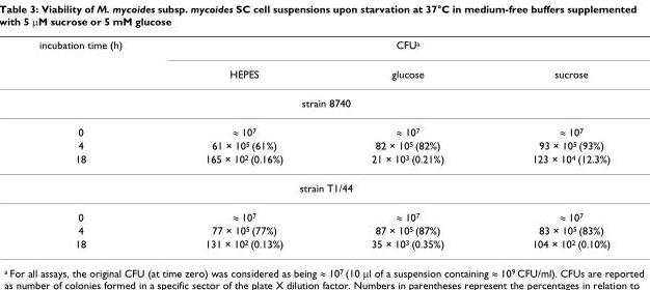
<table><thead><tr><td rowspan="2">incubation time (h)</td><td colspan="3">CFUa</td></tr><tr><td>HEPES</td><td>glucose</td><td>sucrose</td></tr></thead><tbody><tr><td colspan="4">strain 8740</td></tr><tr><td>0</td><td>≈ 107</td><td>≈ 107</td><td>≈ 107</td></tr><tr><td>4</td><td>61 × 105 (61%)</td><td>82 × 105 (82%)</td><td>93 × 105 (93%)</td></tr><tr><td>18</td><td>165 × 102 (0.16%)</td><td>21 × 103 (0.21%)</td><td>123 × 104 (12.3%)</td></tr><tr><td colspan="4">strain T1/44</td></tr><tr><td>0</td><td>≈ 107</td><td>≈ 107</td><td>≈ 107</td></tr><tr><td>4</td><td>77 × 105 (77%)</td><td>87 × 105 (87%)</td><td>83 × 105 (83%)</td></tr><tr><td>18</td><td>131 × 102 (0.13%)</td><td>35 × 103 (0.35%)</td><td>104 × 102 (0.10%)</td></tr></tbody></table>